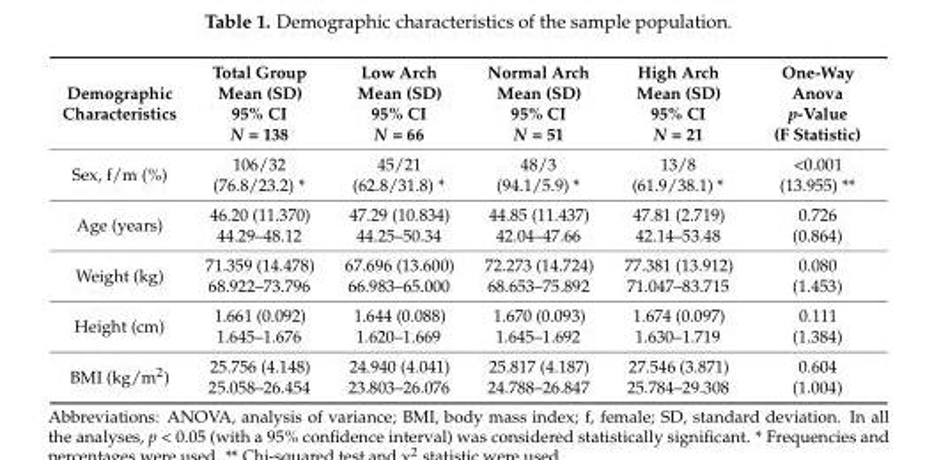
<table><thead><tr><td>Demographic Characteristics</td><td>Total Group Mean (SD) 95% CI N = 138</td><td>Low Arch Mean (SD) 95% CI N = 66</td><td>Normal Arch Mean (SD) 95% CI N = 51</td><td>High Arch Mean (SD) 95% CI N = 21</td><td>One-Way Anova p-Value (F Statistic)</td></tr></thead><tbody><tr><td>Sex, f/m (%)</td><td>106/32 (76.8/23.2) *</td><td>45/21 (62.8/31.8) *</td><td>48/3 (94.1/5.9) *</td><td>13/8 (61.9/38.1) *</td><td>&lt;0.001 (13.955) **</td></tr><tr><td>Age (years)</td><td>46.20 (11.370) 44.29–48.12</td><td>47.29 (10.834) 44.25–50.34</td><td>44.85 (11.437) 42.04–47.66</td><td>47.81 (2.719) 42.14–53.48</td><td>0.726 (0.864)</td></tr><tr><td>Weight (kg)</td><td>71.359 (14.478) 68.922–73.796</td><td>67.696 (13.600) 66.983–65.000</td><td>72.273 (14.724) 68.653–75.892</td><td>77.381 (13.912) 71.047–83.715</td><td>0.080 (1.453)</td></tr><tr><td>Height (cm)</td><td>1.661 (0.092) 1.645–1.676</td><td>1.644 (0.088) 1.620–1.669</td><td>1.670 (0.093) 1.645–1.692</td><td>1.674 (0.097) 1.630–1.719</td><td>0.111 (1.384)</td></tr><tr><td>BMI (kg/m<sup>2</sup>)</td><td>25.756 (4.148) 25.058–26.454</td><td>24.940 (4.041) 23.803–26.076</td><td>25.817 (4.187) 24.788–26.847</td><td>27.546 (3.871) 25.784–29.308</td><td>0.604 (1.004)</td></tr></tbody></table>